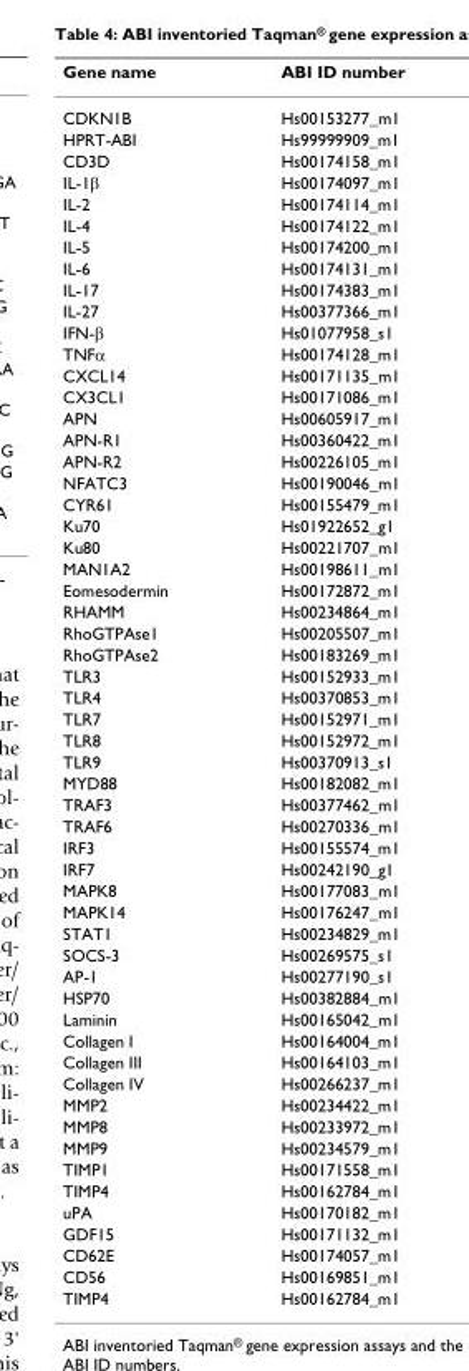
<table><thead><tr><td>Gene name</td><td>ABI ID number</td></tr></thead><tbody><tr><td>CDKN1B</td><td>Hs00153277_m1</td></tr><tr><td>HPRT-ABI</td><td>Hs99999909_m1</td></tr><tr><td>CD3D</td><td>Hs00174158_m1</td></tr><tr><td>IL-1β</td><td>Hs00174097_m1</td></tr><tr><td>IL-2</td><td>Hs00174114_m1</td></tr><tr><td>IL-4</td><td>Hs00174122_m1</td></tr><tr><td>IL-5</td><td>Hs00174200_m1</td></tr><tr><td>IL-6</td><td>Hs00174131_m1</td></tr><tr><td>IL-17</td><td>Hs00174383_m1</td></tr><tr><td>IL-27</td><td>Hs00377366_m1</td></tr><tr><td>IFN-β</td><td>Hs01077958_s1</td></tr><tr><td>TNFα</td><td>Hs00174128_m1</td></tr><tr><td>CXCL14</td><td>Hs00171135_m1</td></tr><tr><td>CX3CL1</td><td>Hs00171086_m1</td></tr><tr><td>APN</td><td>Hs00605917_m1</td></tr><tr><td>APN-R1</td><td>Hs00360422_m1</td></tr><tr><td>APN-R2</td><td>Hs00226105_m1</td></tr><tr><td>NFATC3</td><td>Hs00190046_m1</td></tr><tr><td>CYR61</td><td>Hs00155479_m1</td></tr><tr><td>Ku70</td><td>Hs01922652_g1</td></tr><tr><td>Ku80</td><td>Hs00221707_m1</td></tr><tr><td>MAN1A2</td><td>Hs00198611_m1</td></tr><tr><td>Eomesodermin</td><td>Hs00172872_m1</td></tr><tr><td>RHAMM</td><td>Hs00234864_m1</td></tr><tr><td>RhoGTPAse1</td><td>Hs00205507_m1</td></tr><tr><td>RhoGTPAse2</td><td>Hs00183269_m1</td></tr><tr><td>TLR3</td><td>Hs00152933_m1</td></tr><tr><td>TLR4</td><td>Hs00370853_m1</td></tr><tr><td>TLR7</td><td>Hs00152971_m1</td></tr><tr><td>TLR8</td><td>Hs00152972_m1</td></tr><tr><td>TLR9</td><td>Hs00370913_s1</td></tr><tr><td>MYD88</td><td>Hs00182082_m1</td></tr><tr><td>TRAF3</td><td>Hs00377462_m1</td></tr><tr><td>TRAF6</td><td>Hs00270336_m1</td></tr><tr><td>IRF3</td><td>Hs00155574_m1</td></tr><tr><td>IRF7</td><td>Hs00242190_g1</td></tr><tr><td>MAPK8</td><td>Hs00177083_m1</td></tr><tr><td>MAPK14</td><td>Hs00176247_m1</td></tr><tr><td>STAT1</td><td>Hs00234829_m1</td></tr><tr><td>SOCS-3</td><td>Hs00269575_s1</td></tr><tr><td>AP-1</td><td>Hs00277190_s1</td></tr><tr><td>HSP70</td><td>Hs00382884_m1</td></tr><tr><td>Laminin</td><td>Hs00165042_m1</td></tr><tr><td>Collagen I</td><td>Hs00164004_m1</td></tr><tr><td>Collagen III</td><td>Hs00164103_m1</td></tr><tr><td>Collagen IV</td><td>Hs00266237_m1</td></tr><tr><td>MMP2</td><td>Hs00234422_m1</td></tr><tr><td>MMP8</td><td>Hs00233972_m1</td></tr><tr><td>MMP9</td><td>Hs00234579_m1</td></tr><tr><td>TIMP1</td><td>Hs00171558_m1</td></tr><tr><td>TIMP4</td><td>Hs00162784_m1</td></tr><tr><td>uPA</td><td>Hs00170182_m1</td></tr><tr><td>GDF15</td><td>Hs00171132_m1</td></tr><tr><td>CD62E</td><td>Hs00174057_m1</td></tr><tr><td>CD56</td><td>Hs00169851_m1</td></tr><tr><td>TIMP4</td><td>Hs00162784_m1</td></tr></tbody></table>